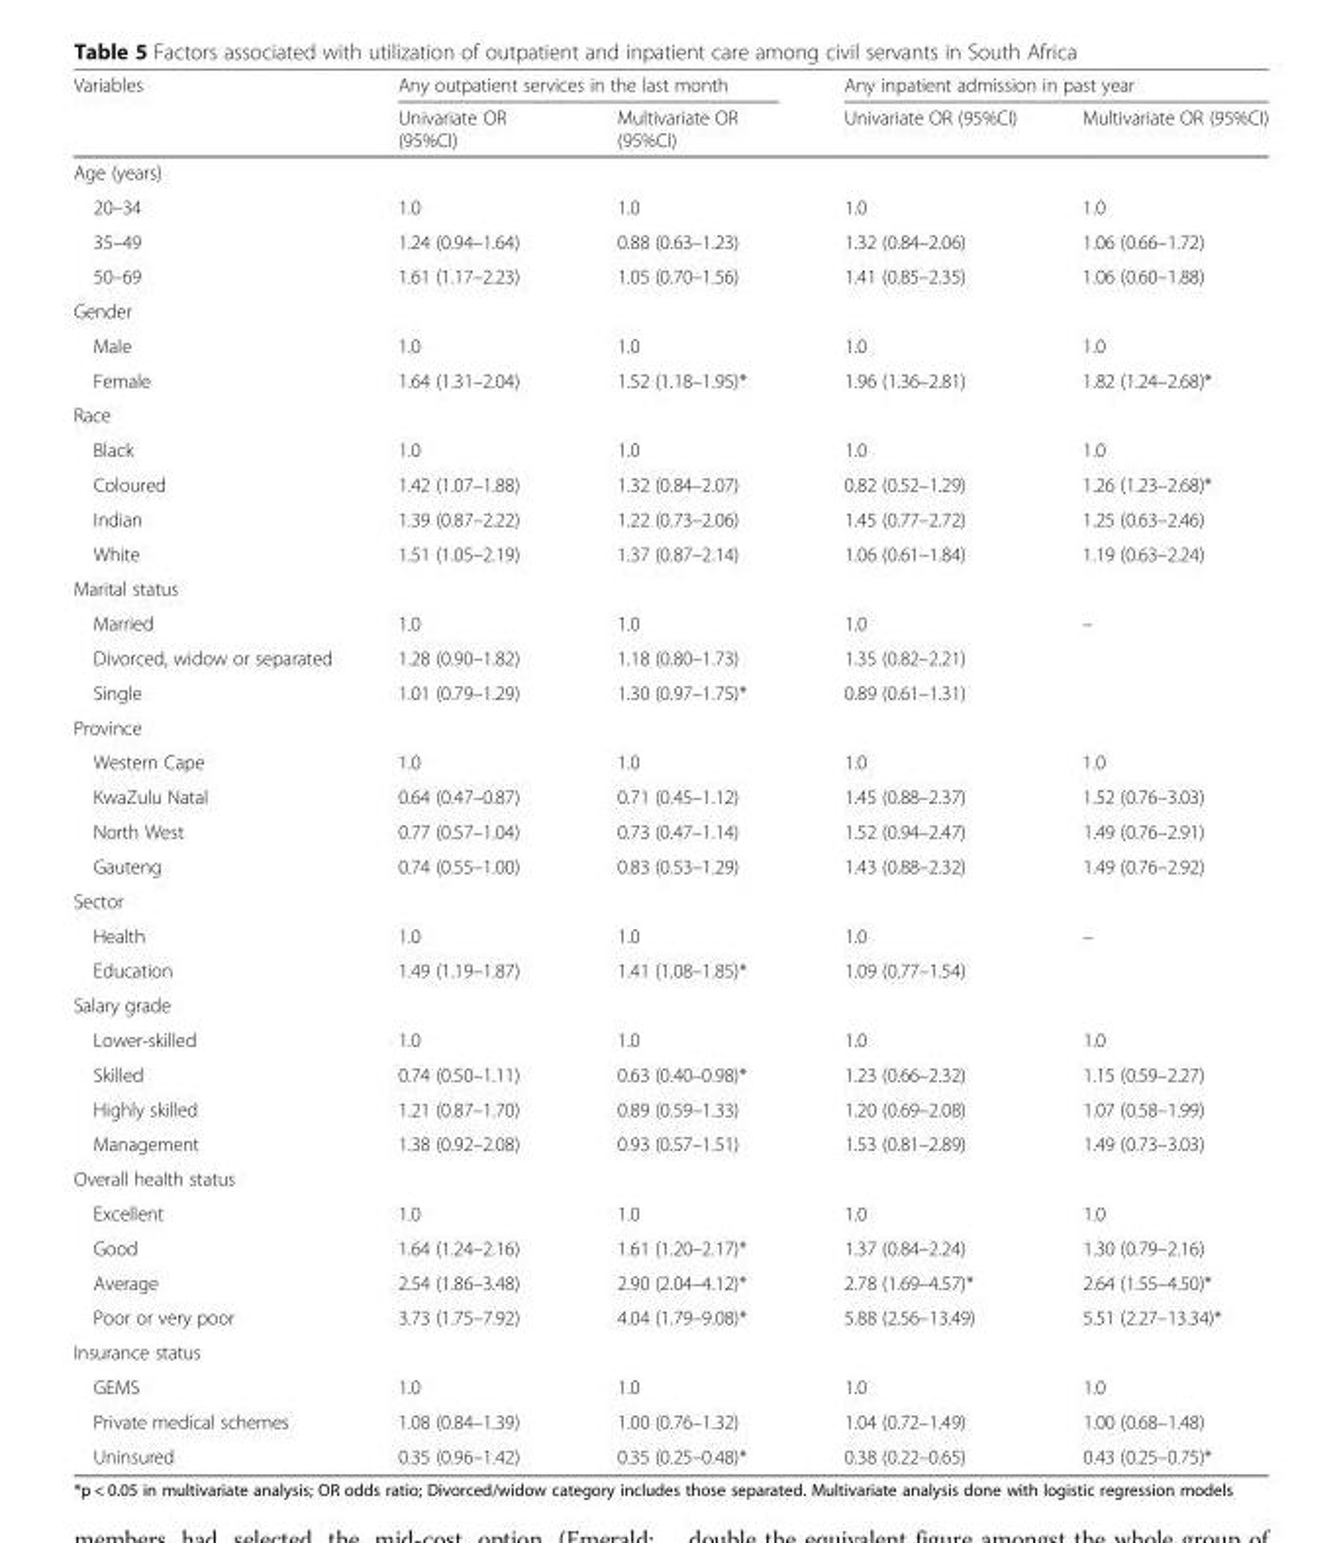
<table><thead><tr><td rowspan="2">Variables</td><td colspan="2">Any outpatient services in the last month</td><td colspan="2">Any inpatient admission in past year</td></tr><tr><td>Univariate OR (95%CI)</td><td>Multivariate OR (95%CI)</td><td>Univariate OR (95%CI)</td><td>Multivariate OR (95%CI)</td></tr></thead><tbody><tr><td colspan="5">Age (years)</td></tr><tr><td>20–34</td><td>1.0</td><td>1.0</td><td>1.0</td><td>1.0</td></tr><tr><td>35–49</td><td>1.24 (0.94–1.64)</td><td>0.88 (0.63–1.23)</td><td>1.32 (0.84–2.06)</td><td>1.06 (0.66–1.72)</td></tr><tr><td>50–69</td><td>1.61 (1.17–2.23)</td><td>1.05 (0.70–1.56)</td><td>1.41 (0.85–2.35)</td><td>1.06 (0.60–1.88)</td></tr><tr><td colspan="5">Gender</td></tr><tr><td>Male</td><td>1.0</td><td>1.0</td><td>1.0</td><td>1.0</td></tr><tr><td>Female</td><td>1.64 (1.31–2.04)</td><td>1.52 (1.18–1.95)*</td><td>1.96 (1.36–2.81)</td><td>1.82 (1.24–2.68)*</td></tr><tr><td colspan="5">Race</td></tr><tr><td>Black</td><td>1.0</td><td>1.0</td><td>1.0</td><td>1.0</td></tr><tr><td>Coloured</td><td>1.42 (1.07–1.88)</td><td>1.32 (0.84–2.07)</td><td>0.82 (0.52–1.29)</td><td>1.26 (1.23–2.68)*</td></tr><tr><td>Indian</td><td>1.39 (0.87–2.22)</td><td>1.22 (0.73–2.06)</td><td>1.45 (0.77–2.72)</td><td>1.25 (0.63–2.46)</td></tr><tr><td>White</td><td>1.51 (1.05–2.19)</td><td>1.37 (0.87–2.14)</td><td>1.06 (0.61–1.84)</td><td>1.19 (0.63–2.24)</td></tr><tr><td colspan="5">Marital status</td></tr><tr><td>Married</td><td>1.0</td><td>1.0</td><td>1.0</td><td>–</td></tr><tr><td>Divorced, widow or separated</td><td>1.28 (0.90–1.82)</td><td>1.18 (0.80–1.73)</td><td>1.35 (0.82–2.21)</td><td></td></tr><tr><td>Single</td><td>1.01 (0.79–1.29)</td><td>1.30 (0.97–1.75)*</td><td>0.89 (0.61–1.31)</td><td></td></tr><tr><td colspan="5">Province</td></tr><tr><td>Western Cape</td><td>1.0</td><td>1.0</td><td>1.0</td><td>1.0</td></tr><tr><td>KwaZulu Natal</td><td>0.64 (0.47–0.87)</td><td>0.71 (0.45–1.12)</td><td>1.45 (0.88–2.37)</td><td>1.52 (0.76–3.03)</td></tr><tr><td>North West</td><td>0.77 (0.57–1.04)</td><td>0.73 (0.47–1.14)</td><td>1.52 (0.94–2.47)</td><td>1.49 (0.76–2.91)</td></tr><tr><td>Gauteng</td><td>0.74 (0.55–1.00)</td><td>0.83 (0.53–1.29)</td><td>1.43 (0.88–2.32)</td><td>1.49 (0.76–2.92)</td></tr><tr><td colspan="5">Sector</td></tr><tr><td>Health</td><td>1.0</td><td>1.0</td><td>1.0</td><td>–</td></tr><tr><td>Education</td><td>1.49 (1.19–1.87)</td><td>1.41 (1.08–1.85)*</td><td>1.09 (0.77–1.54)</td><td></td></tr><tr><td colspan="5">Salary grade</td></tr><tr><td>Lower-skilled</td><td>1.0</td><td>1.0</td><td>1.0</td><td>1.0</td></tr><tr><td>Skilled</td><td>0.74 (0.50–1.11)</td><td>0.63 (0.40–0.98)*</td><td>1.23 (0.66–2.32)</td><td>1.15 (0.59–2.27)</td></tr><tr><td>Highly skilled</td><td>1.21 (0.87–1.70)</td><td>0.89 (0.59–1.33)</td><td>1.20 (0.69–2.08)</td><td>1.07 (0.58–1.99)</td></tr><tr><td>Management</td><td>1.38 (0.92–2.08)</td><td>0.93 (0.57–1.51)</td><td>1.53 (0.81–2.89)</td><td>1.49 (0.73–3.03)</td></tr><tr><td colspan="5">Overall health status</td></tr><tr><td>Excellent</td><td>1.0</td><td>1.0</td><td>1.0</td><td>1.0</td></tr><tr><td>Good</td><td>1.64 (1.24–2.16)</td><td>1.61 (1.20–2.17)*</td><td>1.37 (0.84–2.24)</td><td>1.30 (0.79–2.16)</td></tr><tr><td>Average</td><td>2.54 (1.86–3.48)</td><td>2.90 (2.04–4.12)*</td><td>2.78 (1.69–4.57)*</td><td>2.64 (1.55–4.50)*</td></tr><tr><td>Poor or very poor</td><td>3.73 (1.75–7.92)</td><td>4.04 (1.79–9.08)*</td><td>5.88 (2.56–13.49)</td><td>5.51 (2.27–13.34)*</td></tr><tr><td colspan="5">Insurance status</td></tr><tr><td>GEMS</td><td>1.0</td><td>1.0</td><td>1.0</td><td>1.0</td></tr><tr><td>Private medical schemes</td><td>1.08 (0.84–1.39)</td><td>1.00 (0.76–1.32)</td><td>1.04 (0.72–1.49)</td><td>1.00 (0.68–1.48)</td></tr><tr><td>Uninsured</td><td>0.35 (0.96–1.42)</td><td>0.35 (0.25–0.48)*</td><td>0.38 (0.22–0.65)</td><td>0.43 (0.25–0.75)*</td></tr></tbody></table>